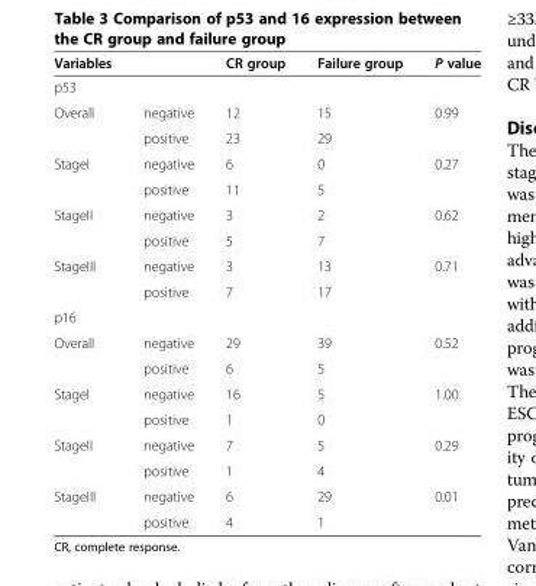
<table><thead><tr><td>Variables</td><td></td><td>CR group</td><td>Failure group</td><td>P value</td></tr></thead><tbody><tr><td colspan="5">p53</td></tr><tr><td rowspan="2">Overall</td><td>negative</td><td>12</td><td>15</td><td>0.99</td></tr><tr><td>positive</td><td>23</td><td>29</td><td></td></tr><tr><td rowspan="2">StageI</td><td>negative</td><td>6</td><td>0</td><td>0.27</td></tr><tr><td>positive</td><td>11</td><td>5</td><td></td></tr><tr><td rowspan="2">StageII</td><td>negative</td><td>3</td><td>2</td><td>0.62</td></tr><tr><td>positive</td><td>5</td><td>7</td><td></td></tr><tr><td rowspan="2">StageIII</td><td>negative</td><td>3</td><td>13</td><td>0.71</td></tr><tr><td>positive</td><td>7</td><td>17</td><td></td></tr><tr><td colspan="5">p16</td></tr><tr><td rowspan="2">Overall</td><td>negative</td><td>29</td><td>39</td><td>0.52</td></tr><tr><td>positive</td><td>6</td><td>5</td><td></td></tr><tr><td rowspan="2">StageI</td><td>negative</td><td>16</td><td>5</td><td>1.00</td></tr><tr><td>positive</td><td>1</td><td>0</td><td></td></tr><tr><td rowspan="2">StageII</td><td>negative</td><td>7</td><td>5</td><td>0.29</td></tr><tr><td>positive</td><td>1</td><td>4</td><td></td></tr><tr><td rowspan="2">StageIII</td><td>negative</td><td>6</td><td>29</td><td>0.01</td></tr><tr><td>positive</td><td>4</td><td>1</td><td></td></tr></tbody></table>